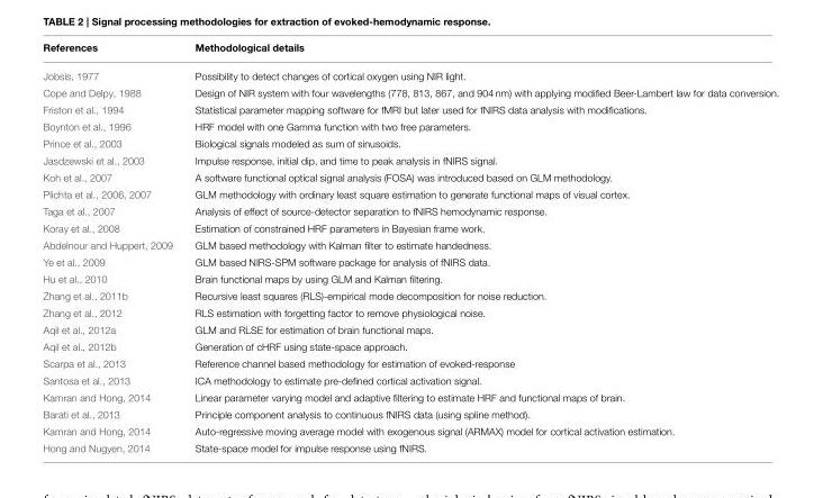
<table><thead><tr><td>References</td><td>Methodological details</td></tr></thead><tbody><tr><td>Jobsis, 1977</td><td>Possibility to detect changes of cortical oxygen using NIR light.</td></tr><tr><td>Cope and Delpy, 1988</td><td>Design of NIR system with four wavelengths (778, 813, 867, and 904 nm) with applying modified Beer-Lambert law for data conversion.</td></tr><tr><td>Friston et al., 1994</td><td>Statistical parameter mapping software for fMRI but later used for fNIRS data analysis with modifications.</td></tr><tr><td>Boynton et al., 1996</td><td>HRF model with one Gamma function with two free parameters.</td></tr><tr><td>Prince et al., 2003</td><td>Biological signals modeled as sum of sinusoids.</td></tr><tr><td>Jasdzewski et al., 2003</td><td>Impulse response, initial dip, and time to peak analysis in fNIRS signal.</td></tr><tr><td>Koh et al., 2007</td><td>A software functional optical signal analysis (FOSA) was introduced based on GLM methodology.</td></tr><tr><td>Plichta et al., 2006, 2007</td><td>GLM methodology with ordinary least square estimation to generate functional maps of visual cortex.</td></tr><tr><td>Taga et al., 2007</td><td>Analysis of effect of source-detector separation to fNIRS hemodynamic response.</td></tr><tr><td>Koray et al., 2008</td><td>Estimation of constrained HRF parameters in Bayesian frame work.</td></tr><tr><td>Abdelnour and Huppert, 2009</td><td>GLM based methodology with Kalman filter to estimate handedness.</td></tr><tr><td>Ye et al., 2009</td><td>GLM based NIRS-SPM software package for analysis of fNIRS data.</td></tr><tr><td>Hu et al., 2010</td><td>Brain functional maps by using GLM and Kalman filtering.</td></tr><tr><td>Zhang et al., 2011b</td><td>Recursive least squares (RLS)-empirical mode decomposition for noise reduction.</td></tr><tr><td>Zhang et al., 2012</td><td>RLS estimation with forgetting factor to remove physiological noise.</td></tr><tr><td>Aqil et al., 2012a</td><td>GLM and RLSE for estimation of brain functional maps.</td></tr><tr><td>Aqil et al., 2012b</td><td>Generation of cHRF using state-space approach.</td></tr><tr><td>Scarpa et al., 2013</td><td>Reference channel based methodology for estimation of evoked-response</td></tr><tr><td>Santosa et al., 2013</td><td>ICA methodology to estimate pre-defined cortical activation signal.</td></tr><tr><td>Kamran and Hong, 2014</td><td>Linear parameter varying model and adaptive filtering to estimate HRF and functional maps of brain.</td></tr><tr><td>Barati et al., 2013</td><td>Principle component analysis to continuous fNIRS data (using spline method).</td></tr><tr><td>Kamran and Hong, 2014</td><td>Auto-regressive moving average model with exogenous signal (ARMAX) model for cortical activation estimation.</td></tr><tr><td>Hong and Nugyen, 2014</td><td>State-space model for impulse response using fNIRS.</td></tr></tbody></table>